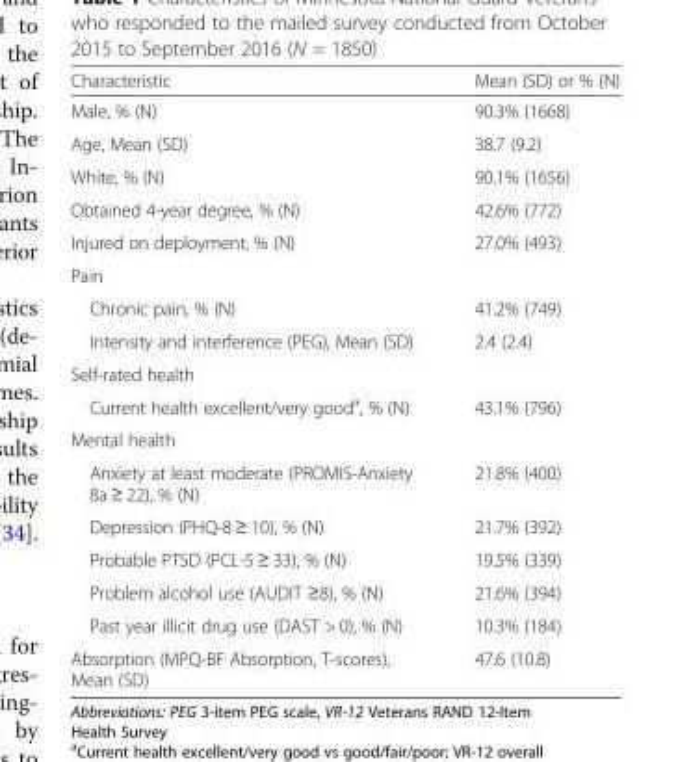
<table><thead><tr><td>Characteristic</td><td>Mean (SD) or % (N)</td></tr></thead><tbody><tr><td>Male, % (N)</td><td>90.3% (1668)</td></tr><tr><td>Age, Mean (SD)</td><td>38.7 (9.2)</td></tr><tr><td>White, % (N)</td><td>90.1% (1656)</td></tr><tr><td>Obtained 4-year degree, % (N)</td><td>42.6% (772)</td></tr><tr><td>Injured on deployment, % (N)</td><td>27.0% (493)</td></tr><tr><td colspan="2">Pain</td></tr><tr><td>Chronic pain, % (N)</td><td>41.2% (749)</td></tr><tr><td>Intensity and interference (PEG), Mean (SD)</td><td>2.4 (2.4)</td></tr><tr><td colspan="2">Self-rated health</td></tr><tr><td>Current health excellent/very good<sup>a</sup>, % (N)</td><td>43.1% (796)</td></tr><tr><td colspan="2">Mental health</td></tr><tr><td>Anxiety at least moderate (PROMIS-Anxiety 8a ≥ 22), % (N)</td><td>21.8% (400)</td></tr><tr><td>Depression (PHQ-8 ≥ 10), % (N)</td><td>21.7% (392)</td></tr><tr><td>Probable PTSD (PCL-5 ≥ 33), % (N)</td><td>19.5% (339)</td></tr><tr><td>Problem alcohol use (AUDIT ≥8), % (N)</td><td>21.6% (394)</td></tr><tr><td>Past year illicit drug use (DAST &gt; 0), % (N)</td><td>10.3% (184)</td></tr><tr><td>Absorption (MPQ-BF Absorption, T-scores), Mean (SD)</td><td>47.6 (10.8)</td></tr></tbody></table>